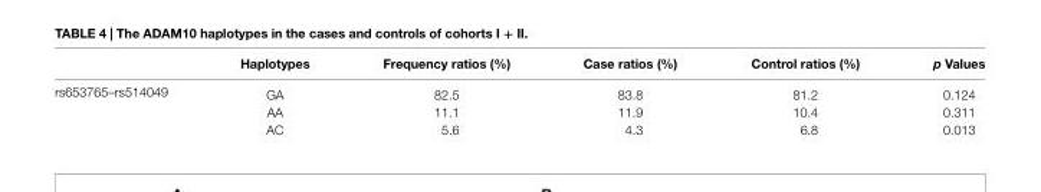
<table><thead><tr><td></td><td>haplotypes</td><td>Frequency ratios (%)</td><td>case ratios (%)</td><td>control ratios (%)</td><td>p Values</td></tr></thead><tbody><tr><td rowspan="3">rs653765–rs514049</td><td>GA</td><td>82.5</td><td>83.8</td><td>81.2</td><td>0.124</td></tr><tr><td>AA</td><td>11.1</td><td>11.9</td><td>10.4</td><td>0.311</td></tr><tr><td>AC</td><td>5.6</td><td>4.3</td><td>6.8</td><td>0.013</td></tr></tbody></table>